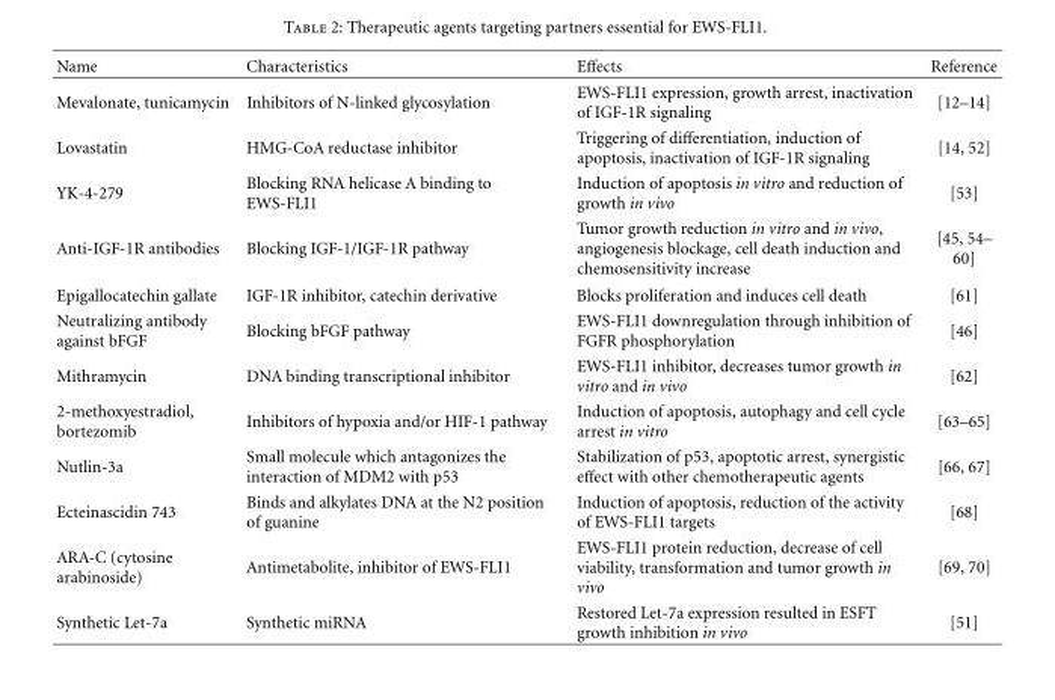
<table><thead><tr><td>Name</td><td>Characteristics</td><td>Effects</td><td>Reference</td></tr></thead><tbody><tr><td>Mevalonate, tunicamycin</td><td>Inhibitors of N-linked glycosylation</td><td>EWS-FLI1 expression, growth arrest, inactivation of IGF-1R signaling</td><td>[12–14]</td></tr><tr><td>Lovastatin</td><td>HMG-CoA reductase inhibitor</td><td>Triggering of differentiation, induction of apoptosis, inactivation of IGF-1R signaling</td><td>[14, 52]</td></tr><tr><td>YK-4-279</td><td>Blocking RNA helicase A binding to EWS-FLI1</td><td>Induction of apoptosis in vitro and reduction of growth in vivo</td><td>[53]</td></tr><tr><td>Anti-IGF-1R antibodies</td><td>Blocking IGF-1/IGF-1R pathway</td><td>Tumor growth reduction in vitro and in vivo, angiogenesis blockage, cell death induction and chemosensitivity increase</td><td>[45, 54– 60]</td></tr><tr><td>Epigallocatechin gallate</td><td>IGF-1R inhibitor, catechin derivative</td><td>Blocks proliferation and induces cell death</td><td>[61]</td></tr><tr><td>Neutralizing antibody against bFGF</td><td>Blocking bFGF pathway</td><td>EWS-FLI1 downregulation through inhibition of FGFR phosphorylation</td><td>[46]</td></tr><tr><td>Mithramycin</td><td>DNA binding transcriptional inhibitor</td><td>EWS-FLI1 inhibitor, decreases tumor growth in vitro and in vivo</td><td>[62]</td></tr><tr><td>2-methoxyestradiol, bortezomib</td><td>Inhibitors of hypoxia and/or HIF-1 pathway</td><td>Induction of apoptosis, autophagy and cell cycle arrest in vitro</td><td>[63–65]</td></tr><tr><td>Nutlin-3a</td><td>Small molecule which antagonizes the interaction of MDM2 with p53</td><td>Stabilization of p53, apoptotic arrest, synergistic effect with other chemotherapeutic agents</td><td>[66, 67]</td></tr><tr><td>Ecteinascidin 743</td><td>Binds and alkylates DNA at the N2 position of guanine</td><td>Induction of apoptosis, reduction of the activity of EWS-FLI1 targets</td><td>[68]</td></tr><tr><td>ARA-C (cytosine arabinoside)</td><td>Antimetabolite, inhibitor of EWS-FLI1</td><td>EWS-FLI1 protein reduction, decrease of cell viability, transformation and tumor growth in vivo</td><td>[69, 70]</td></tr><tr><td>Synthetic Let-7a</td><td>Synthetic miRNA</td><td>Restored Let-7a expression resulted in ESFT growth inhibition in vivo</td><td>[51]</td></tr></tbody></table>